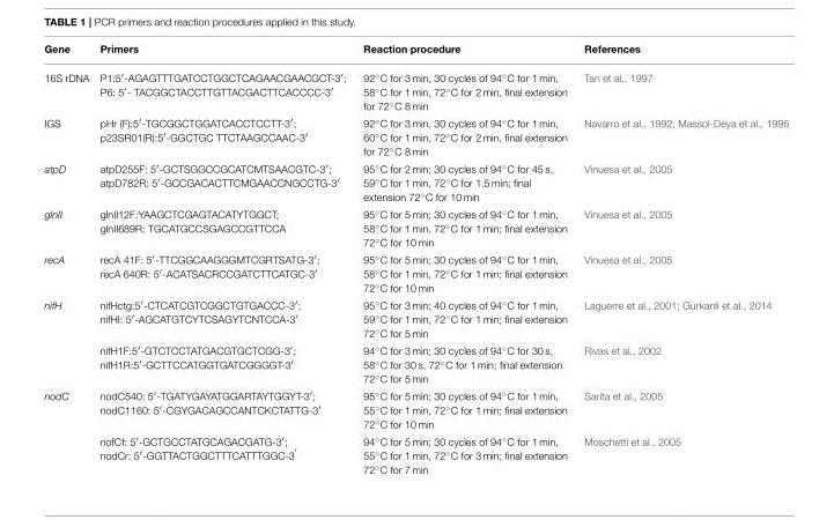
<table><thead><tr><td>Gene</td><td>Primers</td><td>Reaction procedure</td><td>References</td></tr></thead><tbody><tr><td>16S rDNA</td><td>P1:5′-AGAGTTTGATCCTGGCTCAGAACGAACGCT-3′; P6: 5′- TACGGCTACCTTGTTACGACTTCACCCC-3′</td><td>92◦C for 3 min, 30 cycles of 94◦C for 1 min, 58◦C for 1 min, 72◦C for 2 min, final extension for 72◦C 8 min</td><td>Tan et al., 1997</td></tr><tr><td>IGS</td><td>pHr (F):5′-TGCGGCTGGATCACCTCCTT-3′; p23SR01(R):5′-GGCTGC TTCTAAGCCAAC-3′</td><td>92◦C for 3 min, 30 cycles of 94◦C for 1 min, 60◦C for 1 min, 72◦C for 2 min, final extension for 72◦C 8 min</td><td>Navarro et al., 1992; Massol-Deya et al., 1995</td></tr><tr><td>atpD</td><td>atpD255F: 5′-GCTSGGCCGCATCMTSAACGTC-3′; atpD782R: 5′-GCCGACACTTCMGAACCNGCCTG-3′</td><td>95◦C for 2 min; 30 cycles of 94◦C for 45 s, 59◦C for 1 min, 72◦C for 1.5 min; final extension 72◦C for 10 min</td><td>Vinuesa et al., 2005</td></tr><tr><td>glnII</td><td>glnII12F:YAAGCTCGAGTACATYTGGCT; glnII689R: TGCATGCCSGAGCCGTTCCA</td><td>95◦C for 5 min; 30 cycles of 94◦C for 1 min, 58◦C for 1 min, 72◦C for 1 min; final extension 72◦C for 10 min</td><td>Vinuesa et al., 2005</td></tr><tr><td>recA</td><td>recA 41F: 5′-TTCGGCAAGGGMTCGRTSATG-3′; recA 640R: 5′-ACATSACRCCGATCTTCATGC-3′</td><td>95◦C for 5 min; 30 cycles of 94◦C for 1 min, 58◦C for 1 min, 72◦C for 1 min; final extension 72◦C for 10 min</td><td>Vinuesa et al., 2005</td></tr><tr><td rowspan="2">nifH</td><td>nifHctg:5′-CTCATCGTCGGCTGTGACCC-3′; nifHI: 5′-AGCATGTCYTCSAGYTCNTCCA-3′</td><td>95◦C for 3 min; 40 cycles of 94◦C for 1 min, 59◦C for 1 min, 72◦C for 1 min; final extension 72◦C for 5 min</td><td>Laguerre et al., 2001; Gurkanli et al., 2014</td></tr><tr><td>nifH1F:5′-GTCTCCTATGACGTGCTCGG-3′; nifH1R:5′-GCTTCCATGGTGATCGGGGT-3′</td><td>94◦C for 3 min; 30 cycles of 94◦C for 30 s, 58◦C for 30 s, 72◦C for 1 min; final extension 72◦C for 5 min</td><td>Rivas et al., 2002</td></tr><tr><td rowspan="2">nodC</td><td>nodC540: 5′-TGATYGAYATGGARTAYTGGYT-3′; nodC1160: 5′-CGYGACAGCCANTCKCTATTG-3′</td><td>95◦C for 5 min; 30 cycles of 94◦C for 1 min, 55◦C for 1 min, 72◦C for 1 min; final extension 72◦C for 10 min</td><td>Sarita et al., 2005</td></tr><tr><td>nofCf: 5′-GCTGCCTATGCAGACGATG-3′; nodCr: 5′-GGTTACTGGCTTTCATTTGGC-3 ′</td><td>94◦C for 5 min; 30 cycles of 94◦C for 1 min, 55◦C for 1 min, 72◦C for 3 min; final extension 72◦C for 7 min</td><td>Moschetti et al., 2005</td></tr></tbody></table>